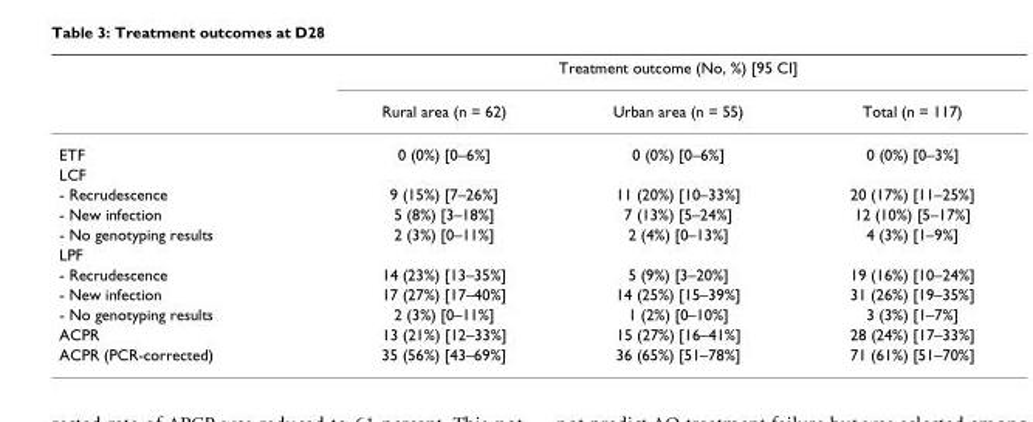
<table><thead><tr><td rowspan="2"></td><td colspan="3">Treatment outcome (No, %) [95 CI]</td></tr><tr><td>Rural area (n = 62)</td><td>Urban area (n = 55)</td><td>Total (n = 117)</td></tr></thead><tbody><tr><td>ETF</td><td>0 (0%) [0–6%]</td><td>0 (0%) [0–6%]</td><td>0 (0%) [0–3%]</td></tr><tr><td colspan="4">LCF</td></tr><tr><td>- Recrudescence</td><td>9 (15%) [7–26%]</td><td>11 (20%) [10–33%]</td><td>20 (17%) [11–25%]</td></tr><tr><td>- New infection</td><td>5 (8%) [3–18%]</td><td>7 (13%) [5–24%]</td><td>12 (10%) [5–17%]</td></tr><tr><td>- No genotyping results</td><td>2 (3%) [0–11%]</td><td>2 (4%) [0–13%]</td><td>4 (3%) [1–9%]</td></tr><tr><td colspan="4">LPF</td></tr><tr><td>- Recrudescence</td><td>14 (23%) [13–35%]</td><td>5 (9%) [3–20%]</td><td>19 (16%) [10–24%]</td></tr><tr><td>- New infection</td><td>17 (27%) [17–40%]</td><td>14 (25%) [15–39%]</td><td>31 (26%) [19–35%]</td></tr><tr><td>- No genotyping results</td><td>2 (3%) [0–11%]</td><td>1 (2%) [0–10%]</td><td>3 (3%) [1–7%]</td></tr><tr><td>ACPR</td><td>13 (21%) [12–33%]</td><td>15 (27%) [16–41%]</td><td>28 (24%) [17–33%]</td></tr><tr><td>ACPR (PCR-corrected)</td><td>35 (56%) [43–69%]</td><td>36 (65%) [51–78%]</td><td>71 (61%) [51–70%]</td></tr></tbody></table>